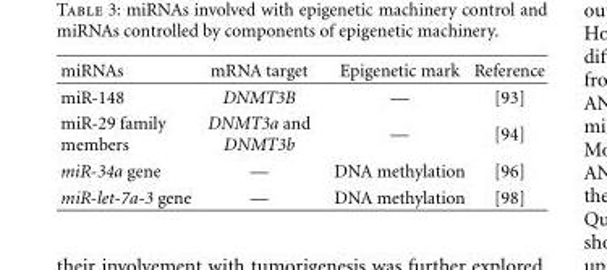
<table><thead><tr><td>miRNAs</td><td>mRNA target</td><td>Epigenetic mark</td><td>Reference</td></tr></thead><tbody><tr><td>miR-148</td><td>DNMT3B</td><td>—</td><td>[93]</td></tr><tr><td>miR-29 family members</td><td>DNMT3a and DNMT3b</td><td>—</td><td>[94]</td></tr><tr><td>miR-34a gene</td><td>—</td><td>DNA methylation</td><td>[96]</td></tr><tr><td>miR-let-7a-3 gene</td><td>—</td><td>DNA methylation</td><td>[98]</td></tr></tbody></table>